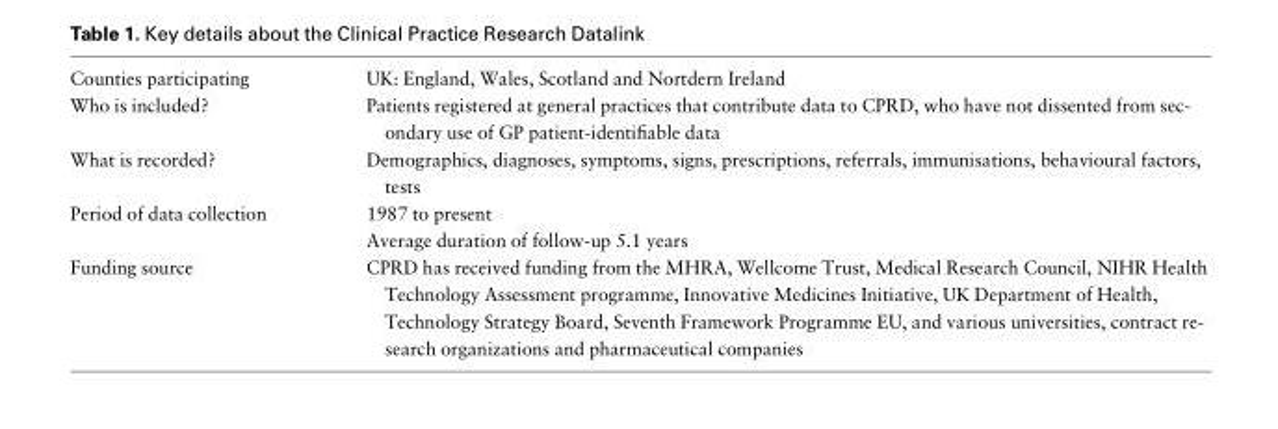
<table><tbody><tr><td>Counties participating</td><td>UK: England, Wales, Scotland and Nortdern Ireland</td></tr><tr><td>Who is included?</td><td>Patients registered at general practices that contribute data to CPRD, who have not dissented from sec- ondary use of GP patient-identifiable data</td></tr><tr><td>What is recorded?</td><td>Demographics, diagnoses, symptoms, signs, prescriptions, referrals, immunisations, behavioural factors, tests</td></tr><tr><td rowspan="2">Period of data collection</td><td>1987 to present</td></tr><tr><td>Average duration of follow-up 5.1 years</td></tr><tr><td>Funding source</td><td>CPRD has received funding from the MHRA, Wellcome Trust, Medical Research Council, NIHR Health Technology Assessment programme, Innovative Medicines Initiative, UK Department of Health, Technology Strategy Board, Seventh Framework Programme EU, and various universities, contract re- search organizations and pharmaceutical companies</td></tr></tbody></table>